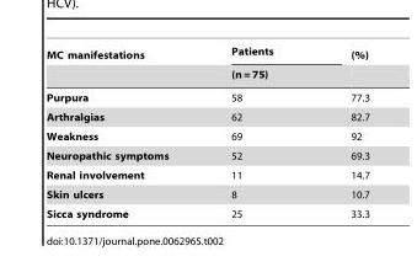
<table><thead><tr><td rowspan="2">MC manifestations</td><td rowspan="2">Patients (n = 75)</td><td rowspan="2">(%)</td></tr><tr></tr></thead><tbody><tr><td>Purpura</td><td>58</td><td>77.3</td></tr><tr><td>Arthralgias</td><td>62</td><td>82.7</td></tr><tr><td>Weakness</td><td>69</td><td>92</td></tr><tr><td>Neuropathic symptoms</td><td>52</td><td>69.3</td></tr><tr><td>Renal involvement</td><td>11</td><td>14.7</td></tr><tr><td>Skin ulcers</td><td>8</td><td>10.7</td></tr><tr><td>Sicca syndrome</td><td>25</td><td>33.3</td></tr></tbody></table>